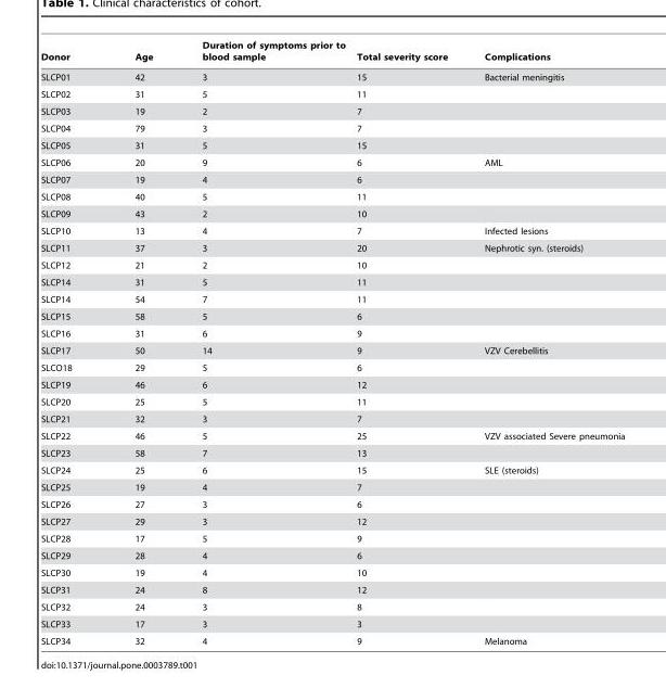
<table><thead><tr><td>Donor</td><td>Age</td><td>Duration of symptoms prior to blood sample</td><td>Total severity score</td><td>Complications</td></tr></thead><tbody><tr><td>SLCP01</td><td>42</td><td>3</td><td>15</td><td>Bacterial meningitis</td></tr><tr><td>SLCP02</td><td>31</td><td>5</td><td>11</td><td></td></tr><tr><td>SLCP03</td><td>19</td><td>2</td><td>7</td><td></td></tr><tr><td>SLCP04</td><td>79</td><td>3</td><td>7</td><td></td></tr><tr><td>SLCP05</td><td>31</td><td>5</td><td>15</td><td></td></tr><tr><td>SLCP06</td><td>20</td><td>9</td><td>6</td><td>AML</td></tr><tr><td>SLCP07</td><td>19</td><td>4</td><td>6</td><td></td></tr><tr><td>SLCP08</td><td>40</td><td>5</td><td>11</td><td></td></tr><tr><td>SLCP09</td><td>43</td><td>2</td><td>10</td><td></td></tr><tr><td>SLCP10</td><td>13</td><td>4</td><td>7</td><td>Infected lesions</td></tr><tr><td>SLCP11</td><td>37</td><td>3</td><td>20</td><td>Nephrotic syn. (steroids)</td></tr><tr><td>SLCP12</td><td>21</td><td>2</td><td>10</td><td></td></tr><tr><td>SLCP14</td><td>31</td><td>5</td><td>11</td><td></td></tr><tr><td>SLCP14</td><td>54</td><td>7</td><td>11</td><td></td></tr><tr><td>SLCP15</td><td>58</td><td>5</td><td>6</td><td></td></tr><tr><td>SLCP16</td><td>31</td><td>6</td><td>9</td><td></td></tr><tr><td>SLCP17</td><td>50</td><td>14</td><td>9</td><td>VZV Cerebellitis</td></tr><tr><td>SLCO18</td><td>29</td><td>5</td><td>6</td><td></td></tr><tr><td>SLCP19</td><td>46</td><td>6</td><td>12</td><td></td></tr><tr><td>SLCP20</td><td>25</td><td>5</td><td>11</td><td></td></tr><tr><td>SLCP21</td><td>32</td><td>3</td><td>7</td><td></td></tr><tr><td>SLCP22</td><td>46</td><td>5</td><td>25</td><td>VZV associated Severe pneumonia</td></tr><tr><td>SLCP23</td><td>58</td><td>7</td><td>13</td><td></td></tr><tr><td>SLCP24</td><td>25</td><td>6</td><td>15</td><td>SLE (steroids)</td></tr><tr><td>SLCP25</td><td>19</td><td>4</td><td>7</td><td></td></tr><tr><td>SLCP26</td><td>27</td><td>3</td><td>6</td><td></td></tr><tr><td>SLCP27</td><td>29</td><td>3</td><td>12</td><td></td></tr><tr><td>SLCP28</td><td>17</td><td>5</td><td>9</td><td></td></tr><tr><td>SLCP29</td><td>28</td><td>4</td><td>6</td><td></td></tr><tr><td>SLCP30</td><td>19</td><td>4</td><td>10</td><td></td></tr><tr><td>SLCP31</td><td>24</td><td>8</td><td>12</td><td></td></tr><tr><td>SLCP32</td><td>24</td><td>3</td><td>8</td><td></td></tr><tr><td>SLCP33</td><td>17</td><td>3</td><td>3</td><td></td></tr><tr><td>SLCP34</td><td>32</td><td>4</td><td>9</td><td>Melanoma</td></tr></tbody></table>